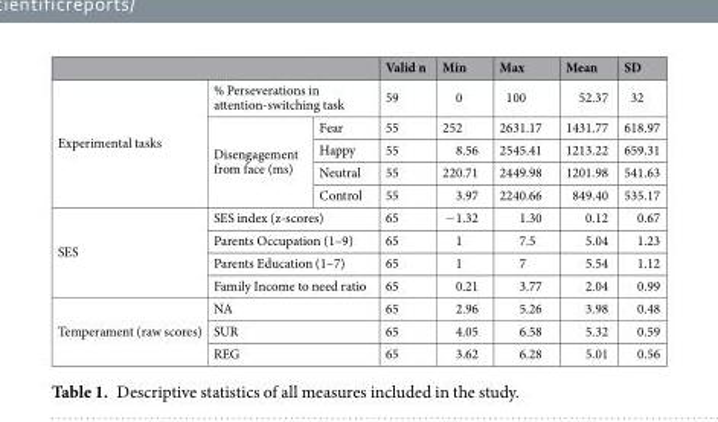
<table><thead><tr><td></td><td></td><td></td><td>Valid n</td><td>Min</td><td>Max</td><td>Mean</td><td>SD</td></tr></thead><tbody><tr><td rowspan="5">Experimental tasks</td><td colspan="2">% Perseverations in attention-switching task</td><td>59</td><td>0</td><td>100</td><td>52.37</td><td>32</td></tr><tr><td rowspan="4">Disengagement from face (ms)</td><td>Fear</td><td>55</td><td>252</td><td>2631.17</td><td>1431.77</td><td>618.97</td></tr><tr><td>Happy</td><td>55</td><td>8.56</td><td>2545.41</td><td>1213.22</td><td>659.31</td></tr><tr><td>Neutral</td><td>55</td><td>220.71</td><td>2449.98</td><td>1201.98</td><td>541.63</td></tr><tr><td>Control</td><td>55</td><td>3.97</td><td>2240.66</td><td>849.40</td><td>535.17</td></tr><tr><td rowspan="4">SES</td><td colspan="2">SES index (z-scores)</td><td>65</td><td>−1.32</td><td>1.30</td><td>0.12</td><td>0.67</td></tr><tr><td colspan="2">Parents Occupation (1–9)</td><td>65</td><td>1</td><td>7.5</td><td>5.04</td><td>1.23</td></tr><tr><td colspan="2">Parents Education (1–7)</td><td>65</td><td>1</td><td>7</td><td>5.54</td><td>1.12</td></tr><tr><td colspan="2">Family Income to need ratio</td><td>65</td><td>0.21</td><td>3.77</td><td>2.04</td><td>0.99</td></tr><tr><td rowspan="3">Temperament (raw scores)</td><td colspan="2">NA</td><td>65</td><td>2.96</td><td>5.26</td><td>3.98</td><td>0.48</td></tr><tr><td colspan="2">SUR</td><td>65</td><td>4.05</td><td>6.58</td><td>5.32</td><td>0.59</td></tr><tr><td colspan="2">REG</td><td>65</td><td>3.62</td><td>6.28</td><td>5.01</td><td>0.56</td></tr></tbody></table>